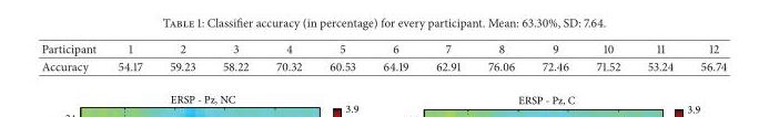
<table><thead><tr><td>Participant</td><td>1</td><td>2</td><td>3</td><td>4</td><td>5</td><td>6</td><td>7</td><td>8</td><td>9</td><td>10</td><td>11</td><td>12</td></tr></thead><tbody><tr><td>Accuracy</td><td>54.17</td><td>59.23</td><td>58.22</td><td>70.32</td><td>60.53</td><td>64.19</td><td>62.91</td><td>76.06</td><td>72.46</td><td>71.52</td><td>53.24</td><td>56.74</td></tr></tbody></table>